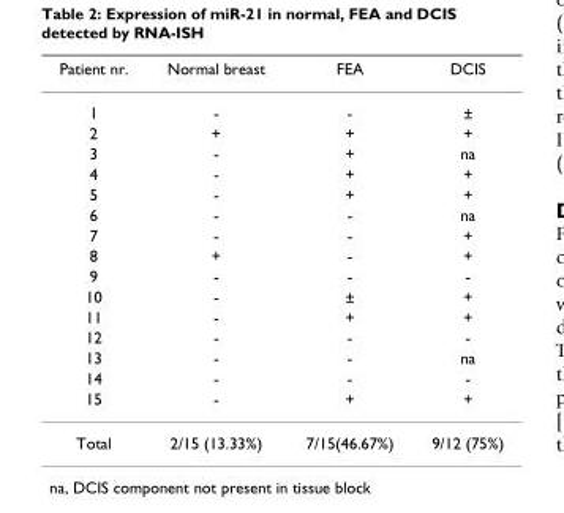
<table><thead><tr><td>Patient nr.</td><td>Normal breast</td><td>FEA</td><td>DCIS</td></tr></thead><tbody><tr><td>1</td><td>-</td><td>-</td><td>±</td></tr><tr><td>2</td><td>+</td><td>+</td><td>+</td></tr><tr><td>3</td><td>-</td><td>+</td><td>na</td></tr><tr><td>4</td><td>-</td><td>+</td><td>+</td></tr><tr><td>5</td><td>-</td><td>+</td><td>+</td></tr><tr><td>6</td><td>-</td><td>-</td><td>na</td></tr><tr><td>7</td><td>-</td><td>-</td><td>+</td></tr><tr><td>8</td><td>+</td><td>-</td><td>+</td></tr><tr><td>9</td><td>-</td><td>-</td><td>-</td></tr><tr><td>10</td><td>-</td><td>±</td><td>+</td></tr><tr><td>11</td><td>-</td><td>+</td><td>+</td></tr><tr><td>12</td><td>-</td><td>-</td><td>-</td></tr><tr><td>13</td><td>-</td><td>-</td><td>na</td></tr><tr><td>14</td><td>-</td><td>-</td><td>-</td></tr><tr><td>15</td><td>-</td><td>+</td><td>+</td></tr><tr><td>Total</td><td>2/15 (13.33%)</td><td>7/15(46.67%)</td><td>9/12 (75%)</td></tr></tbody></table>